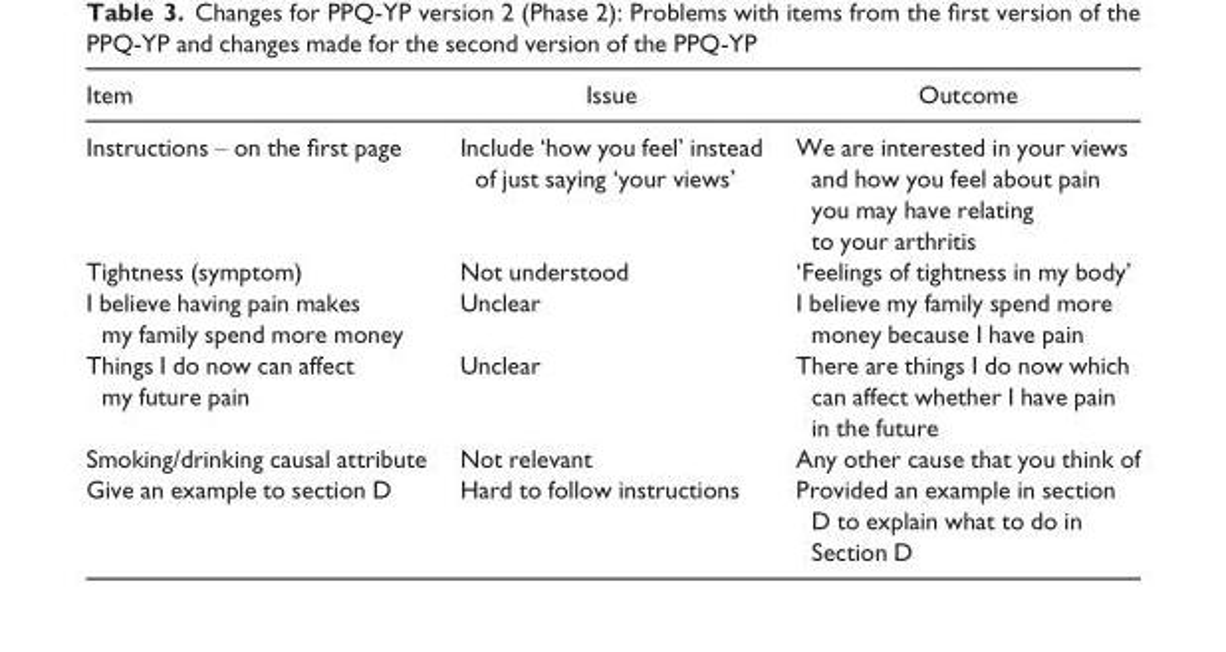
<table><thead><tr><td>Item</td><td>Issue</td><td>Outcome</td></tr></thead><tbody><tr><td>Instructions – on the first page</td><td>Include ‘how you feel’ instead of just saying ‘your views’</td><td>We are interested in your views and how you feel about pain you may have relating to your arthritis</td></tr><tr><td>Tightness (symptom)</td><td>Not understood</td><td>‘Feelings of tightness in my body’</td></tr><tr><td>I believe having pain makes my family spend more money</td><td>Unclear</td><td>I believe my family spend more money because I have pain</td></tr><tr><td>Things I do now can affect my future pain</td><td>Unclear</td><td>There are things I do now which can affect whether I have pain in the future</td></tr><tr><td>Smoking/drinking causal attribute</td><td>Not relevant</td><td>Any other cause that you think of</td></tr><tr><td>Give an example to section D</td><td>Hard to follow instructions</td><td>Provided an example in section D to explain what to do in Section D</td></tr></tbody></table>